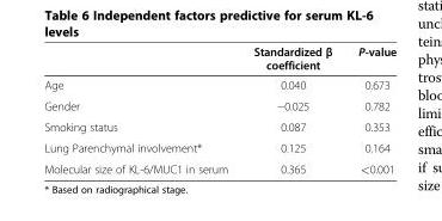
<table><thead><tr><td></td><td>Standardized β coefficient</td><td>P-value</td></tr></thead><tbody><tr><td>Age</td><td>0.040</td><td>0.673</td></tr><tr><td>Gender</td><td>−0.025</td><td>0.782</td></tr><tr><td>Smoking status</td><td>0.087</td><td>0.353</td></tr><tr><td>Lung Parenchymal involvement*</td><td>0.125</td><td>0.164</td></tr><tr><td>Molecular size of KL-6/MUC1 in serum</td><td>0.365</td><td>&lt;0.001</td></tr></tbody></table>